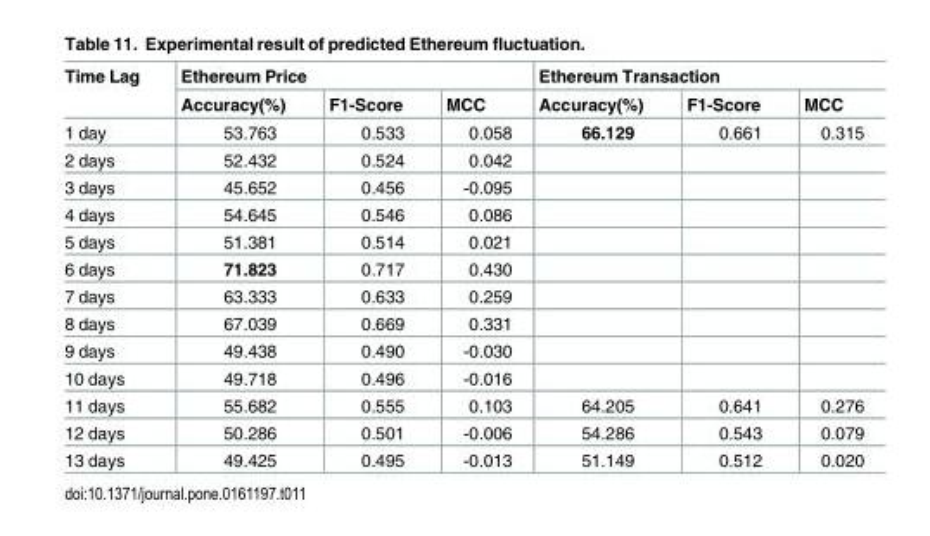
<table><thead><tr><td rowspan="2">Time Lag</td><td colspan="3">Ethereum Price</td><td colspan="3">Ethereum Transaction</td></tr><tr><td>Accuracy(%)</td><td>F1-Score</td><td>MCC</td><td>Accuracy(%)</td><td>F1-Score</td><td>MCC</td></tr></thead><tbody><tr><td>1 day</td><td>53.763</td><td>0.533</td><td>0.058</td><td>66.129</td><td>0.661</td><td>0.315</td></tr><tr><td>2 days</td><td>52.432</td><td>0.524</td><td>0.042</td><td></td><td></td><td></td></tr><tr><td>3 days</td><td>45.652</td><td>0.456</td><td>-0.095</td><td></td><td></td><td></td></tr><tr><td>4 days</td><td>54.645</td><td>0.546</td><td>0.086</td><td></td><td></td><td></td></tr><tr><td>5 days</td><td>51.381</td><td>0.514</td><td>0.021</td><td></td><td></td><td></td></tr><tr><td>6 days</td><td>71.823</td><td>0.717</td><td>0.430</td><td></td><td></td><td></td></tr><tr><td>7 days</td><td>63.333</td><td>0.633</td><td>0.259</td><td></td><td></td><td></td></tr><tr><td>8 days</td><td>67.039</td><td>0.669</td><td>0.331</td><td></td><td></td><td></td></tr><tr><td>9 days</td><td>49.438</td><td>0.490</td><td>-0.030</td><td></td><td></td><td></td></tr><tr><td>10 days</td><td>49.718</td><td>0.496</td><td>-0.016</td><td></td><td></td><td></td></tr><tr><td>11 days</td><td>55.682</td><td>0.555</td><td>0.103</td><td>64.205</td><td>0.641</td><td>0.276</td></tr><tr><td>12 days</td><td>50.286</td><td>0.501</td><td>-0.006</td><td>54.286</td><td>0.543</td><td>0.079</td></tr><tr><td>13 days</td><td>49.425</td><td>0.495</td><td>-0.013</td><td>51.149</td><td>0.512</td><td>0.020</td></tr></tbody></table>